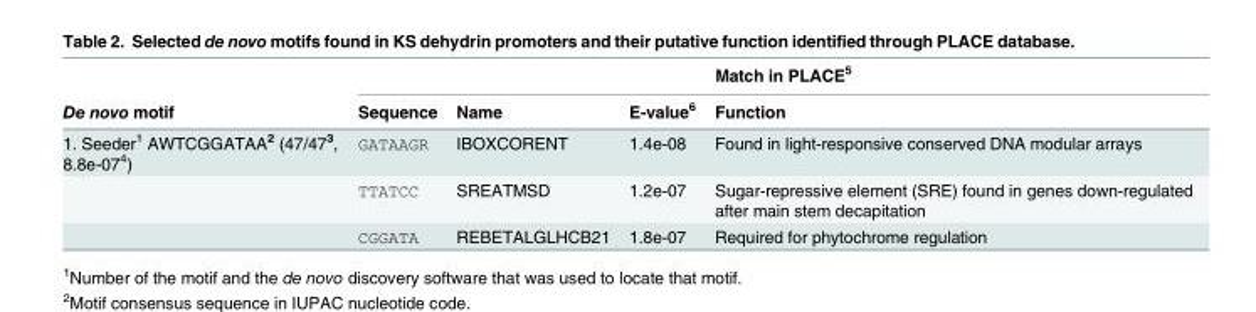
<table><thead><tr><td rowspan="2">De novo motif</td><td colspan="4">Match in PLACE<sup>5</sup></td></tr><tr><td>Sequence</td><td>Name</td><td>E-value<sup>6</sup></td><td>Function</td></tr></thead><tbody><tr><td rowspan="3">1. Seeder<sup>1</sup> AWTCGGATAA<sup>2</sup> (47/47<sup>3</sup>, 8.8e-07<sup>4</sup>)</td><td>GATAAGR</td><td>IBOXCORENT</td><td>1.4e-08</td><td>Found in light-responsive conserved DNA modular arrays</td></tr><tr><td>TTATCC</td><td>SREATMSD</td><td>1.2e-07</td><td>Sugar-repressive element (SRE) found in genes down-regulated after main stem decapitation</td></tr><tr><td>CGGATA</td><td>REBETALGLHCB21</td><td>1.8e-07</td><td>Required for phytochrome regulation</td></tr></tbody></table>